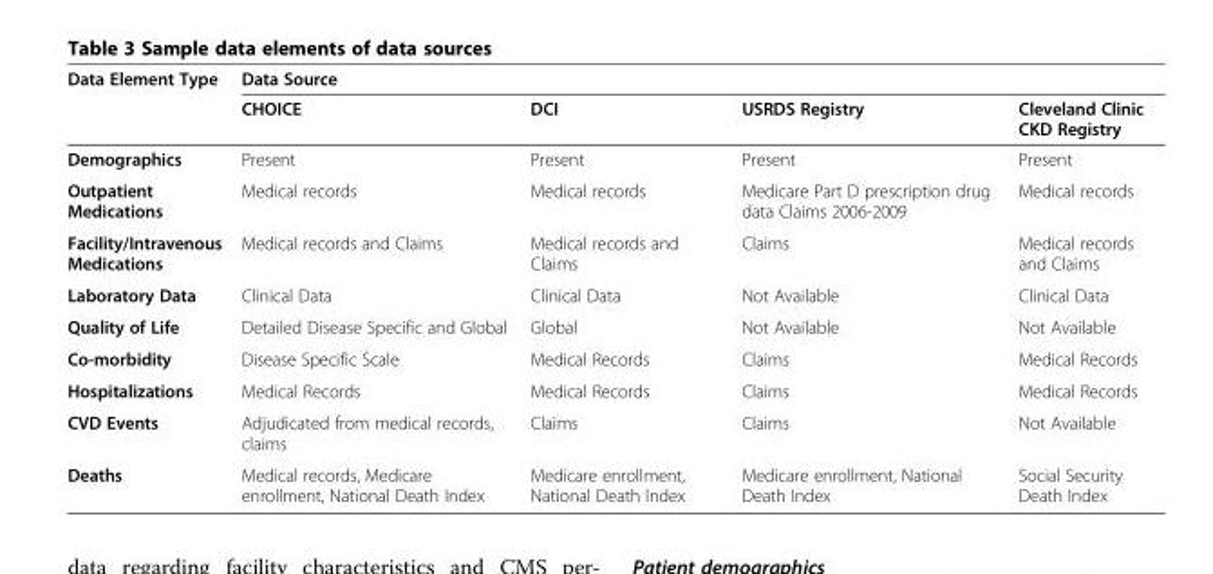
<table><thead><tr><td rowspan="2">Data Element Type</td><td colspan="4">Data Source</td></tr><tr><td>CHOICE</td><td>DCI</td><td>USRDS Registry</td><td>Cleveland Clinic CKD Registry</td></tr></thead><tbody><tr><td>Demographics</td><td>Present</td><td>Present</td><td>Present</td><td>Present</td></tr><tr><td>Outpatient Medications</td><td>Medical records</td><td>Medical records</td><td>Medicare Part D prescription drug data Claims 2006-2009</td><td>Medical records</td></tr><tr><td>Facility/Intravenous Medications</td><td>Medical records and Claims</td><td>Medical records and Claims</td><td>Claims</td><td>Medical records and Claims</td></tr><tr><td>Laboratory Data</td><td>Clinical Data</td><td>Clinical Data</td><td>Not Available</td><td>Clinical Data</td></tr><tr><td>Quality of Life</td><td>Detailed Disease Specific and Global</td><td>Global</td><td>Not Available</td><td>Not Available</td></tr><tr><td>Co-morbidity</td><td>Disease Specific Scale</td><td>Medical Records</td><td>Claims</td><td>Medical Records</td></tr><tr><td>Hospitalizations</td><td>Medical Records</td><td>Medical Records</td><td>Claims</td><td>Medical Records</td></tr><tr><td>CVD Events</td><td>Adjudicated from medical records, claims</td><td>Claims</td><td>Claims</td><td>Not Available</td></tr><tr><td>Deaths</td><td>Medical records, Medicare enrollment, National Death Index</td><td>Medicare enrollment, National Death Index</td><td>Medicare enrollment, National Death Index</td><td>Social Security Death Index</td></tr></tbody></table>